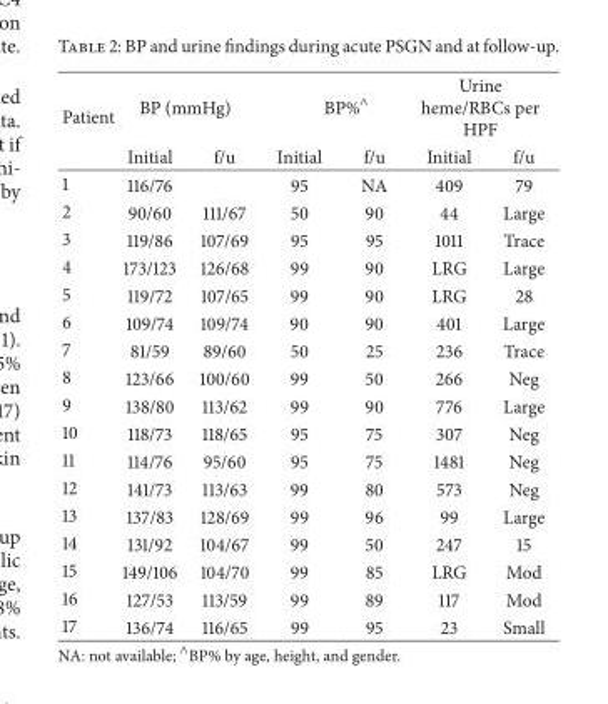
<table><thead><tr><td rowspan="2">Patient</td><td colspan="2">BP (mmHg)</td><td colspan="2">BP%<sup>∧</sup></td><td colspan="2">Urine heme/RBCs per HPF</td></tr><tr><td>Initial</td><td>f/u</td><td>Initial</td><td>f/u</td><td>Initial</td><td>f/u</td></tr></thead><tbody><tr><td>1</td><td>116/76</td><td></td><td>95</td><td>NA</td><td>409</td><td>79</td></tr><tr><td>2</td><td>90/60</td><td>111/67</td><td>50</td><td>90</td><td>44</td><td>Large</td></tr><tr><td>3</td><td>119/86</td><td>107/69</td><td>95</td><td>95</td><td>1011</td><td>Trace</td></tr><tr><td>4</td><td>173/123</td><td>126/68</td><td>99</td><td>90</td><td>LRG</td><td>Large</td></tr><tr><td>5</td><td>119/72</td><td>107/65</td><td>99</td><td>90</td><td>LRG</td><td>28</td></tr><tr><td>6</td><td>109/74</td><td>109/74</td><td>90</td><td>90</td><td>401</td><td>Large</td></tr><tr><td>7</td><td>81/59</td><td>89/60</td><td>50</td><td>25</td><td>236</td><td>Trace</td></tr><tr><td>8</td><td>123/66</td><td>100/60</td><td>99</td><td>50</td><td>266</td><td>Neg</td></tr><tr><td>9</td><td>138/80</td><td>113/62</td><td>99</td><td>90</td><td>776</td><td>Large</td></tr><tr><td>10</td><td>118/73</td><td>118/65</td><td>95</td><td>75</td><td>307</td><td>Neg</td></tr><tr><td>11</td><td>114/76</td><td>95/60</td><td>95</td><td>75</td><td>1481</td><td>Neg</td></tr><tr><td>12</td><td>141/73</td><td>113/63</td><td>99</td><td>80</td><td>573</td><td>Neg</td></tr><tr><td>13</td><td>137/83</td><td>128/69</td><td>99</td><td>96</td><td>99</td><td>Large</td></tr><tr><td>14</td><td>131/92</td><td>104/67</td><td>99</td><td>50</td><td>247</td><td>15</td></tr><tr><td>15</td><td>149/106</td><td>104/70</td><td>99</td><td>85</td><td>LRG</td><td>Mod</td></tr><tr><td>16</td><td>127/53</td><td>113/59</td><td>99</td><td>89</td><td>117</td><td>Mod</td></tr><tr><td>17</td><td>136/74</td><td>116/65</td><td>99</td><td>95</td><td>23</td><td>Small</td></tr></tbody></table>